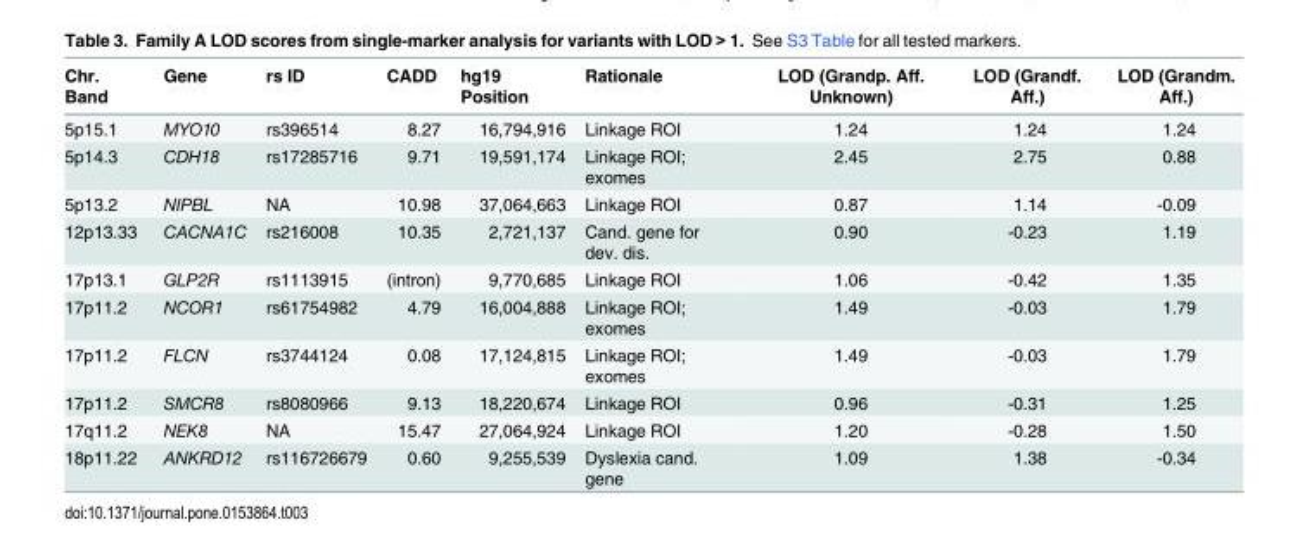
<table><thead><tr><td>Chr. Band</td><td>Gene</td><td>rs ID</td><td>CADD</td><td>hg19 Position</td><td>Rationale</td><td>LOD (Grandp. Aff. Unknown)</td><td>LOD (Grandf. Aff.)</td><td>LOD (Grandm. Aff.)</td></tr></thead><tbody><tr><td>5p15.1</td><td>MYO10</td><td>rs396514</td><td>8.27</td><td>16,794,916</td><td>Linkage ROI</td><td>1.24</td><td>1.24</td><td>1.24</td></tr><tr><td>5p14.3</td><td>CDH18</td><td>rs17285716</td><td>9.71</td><td>19,591,174</td><td>Linkage ROI; exomes</td><td>2.45</td><td>2.75</td><td>0.88</td></tr><tr><td>5p13.2</td><td>NIPBL</td><td>NA</td><td>10.98</td><td>37,064,663</td><td>Linkage ROI</td><td>0.87</td><td>1.14</td><td>-0.09</td></tr><tr><td>12p13.33</td><td>CACNA1C</td><td>rs216008</td><td>10.35</td><td>2,721,137</td><td>Cand. gene for dev. dis.</td><td>0.90</td><td>-0.23</td><td>1.19</td></tr><tr><td>17p13.1</td><td>GLP2R</td><td>rs1113915</td><td>(intron)</td><td>9,770,685</td><td>Linkage ROI</td><td>1.06</td><td>-0.42</td><td>1.35</td></tr><tr><td>17p11.2</td><td>NCOR1</td><td>rs61754982</td><td>4.79</td><td>16,004,888</td><td>Linkage ROI; exomes</td><td>1.49</td><td>-0.03</td><td>1.79</td></tr><tr><td>17p11.2</td><td>FLCN</td><td>rs3744124</td><td>0.08</td><td>17,124,815</td><td>Linkage ROI; exomes</td><td>1.49</td><td>-0.03</td><td>1.79</td></tr><tr><td>17p11.2</td><td>SMCR8</td><td>rs8080966</td><td>9.13</td><td>18,220,674</td><td>Linkage ROI</td><td>0.96</td><td>-0.31</td><td>1.25</td></tr><tr><td>17q11.2</td><td>NEK8</td><td>NA</td><td>15.47</td><td>27,064,924</td><td>Linkage ROI</td><td>1.20</td><td>-0.28</td><td>1.50</td></tr><tr><td>18p11.22</td><td>ANKRD12</td><td>rs116726679</td><td>0.60</td><td>9,255,539</td><td>Dyslexia cand. gene</td><td>1.09</td><td>1.38</td><td>-0.34</td></tr></tbody></table>